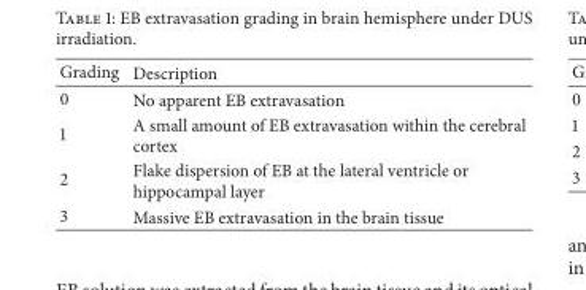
<table><thead><tr><td>Grading</td><td>Description</td></tr></thead><tbody><tr><td>0</td><td>No apparent EB extravasation</td></tr><tr><td>1</td><td>A small amount of EB extravasation within the cerebral cortex</td></tr><tr><td>2</td><td>Flake dispersion of EB at the lateral ventricle or hippocampal layer</td></tr><tr><td>3</td><td>Massive EB extravasation in the brain tissue</td></tr></tbody></table>